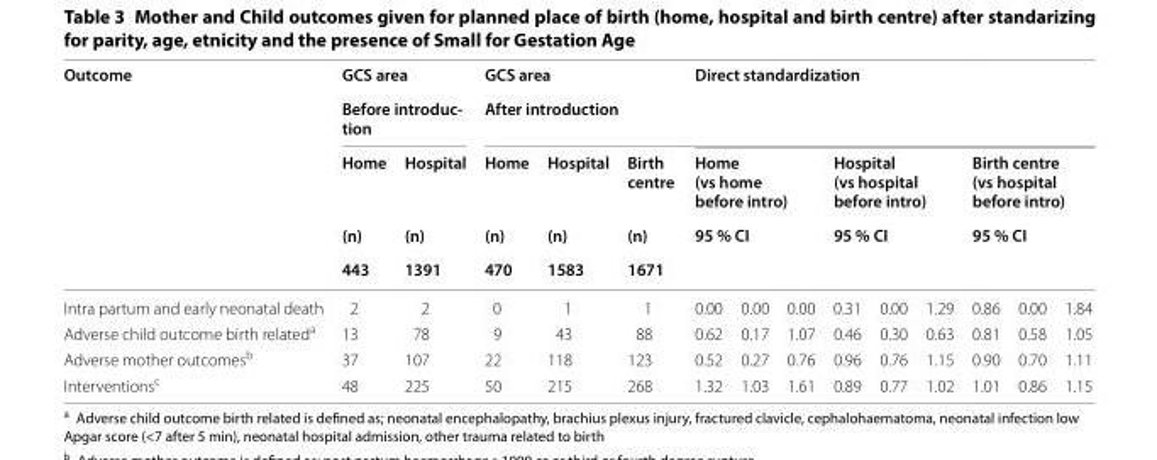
<table><thead><tr><td rowspan="6">Outcome Intra partum and early neonatal death</td><td rowspan="2" colspan="2">GCS area Before introduc- tion</td><td rowspan="2" colspan="3">GCS area After introduction</td><td rowspan="2" colspan="9">Direct standardization</td></tr><tr></tr><tr><td rowspan="4">Home (n) 443 2</td><td rowspan="4">Hospital (n) 1391 2</td><td rowspan="4">Home (n) 470 0</td><td rowspan="4">Hospital (n) 1583 1</td><td rowspan="4">Birth centre (n) 1671 1</td><td rowspan="3" colspan="3">Home (vs home before intro) 95 % CI</td><td rowspan="3" colspan="3">Hospital (vs hospital before intro) 95 % CI</td><td rowspan="3" colspan="3">Birth centre (vs hospital before intro) 95 % CI</td></tr><tr></tr><tr></tr><tr><td>0.00</td><td>0.00</td><td>0.00</td><td>0.31</td><td>0.00</td><td>1.29</td><td>0.86</td><td>0.00</td><td>1.84</td></tr></thead><tbody><tr><td>Adverse child outcome birth related<sup>a</sup></td><td>13</td><td>78</td><td>9</td><td>43</td><td>88</td><td>0.62</td><td>0.17</td><td>1.07</td><td>0.46</td><td>0.30</td><td>0.63</td><td>0.81</td><td>0.58</td><td>1.05</td></tr><tr><td>Adverse mother outcomes<sup>b</sup></td><td>37</td><td>107</td><td>22</td><td>118</td><td>123</td><td>0.52</td><td>0.27</td><td>0.76</td><td>0.96</td><td>0.76</td><td>1.15</td><td>0.90</td><td>0.70</td><td>1.11</td></tr><tr><td>Interventions<sup>c</sup></td><td>48</td><td>225</td><td>50</td><td>215</td><td>268</td><td>1.32</td><td>1.03</td><td>1.61</td><td>0.89</td><td>0.77</td><td>1.02</td><td>1.01</td><td>0.86</td><td>1.15</td></tr></tbody></table>